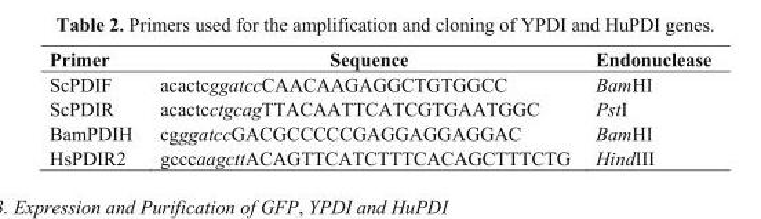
<table><thead><tr><td>Primer</td><td>Sequence</td><td>Endonuclease</td></tr></thead><tbody><tr><td>ScPDIF</td><td>acactcggatccCAACAAGAGGCTGTGGCC</td><td>BamHI</td></tr><tr><td>ScPDIR</td><td>acactcctgcagTTACAATTCATCGTGAATGGC</td><td>PstI</td></tr><tr><td>BamPDIH</td><td>cgggatccGACGCCCCCGAGGAGGAGGAC</td><td>BamHI</td></tr><tr><td>HsPDIR2</td><td>gcccaagcttACAGTTCATCTTTCACAGCTTTCTG</td><td>HindIII</td></tr></tbody></table>